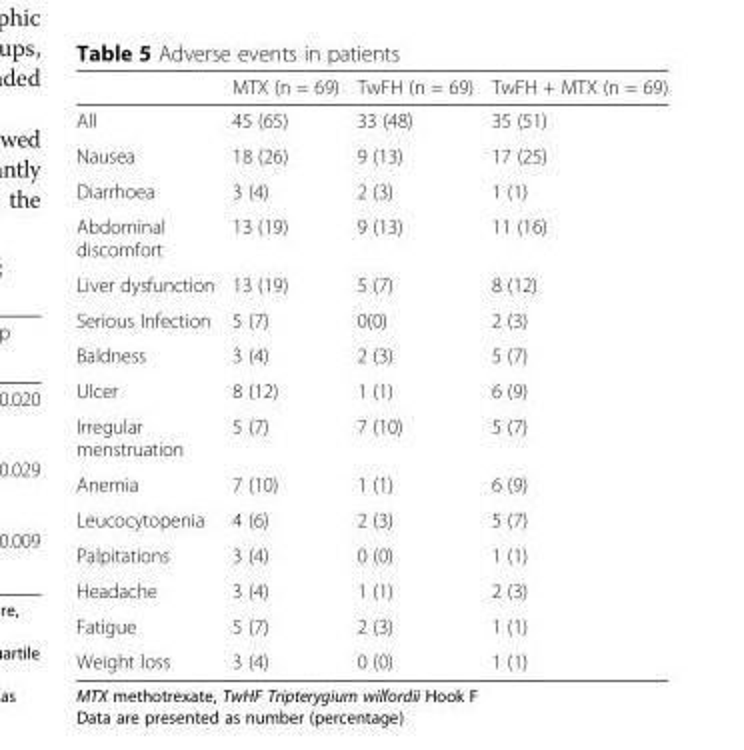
<table><thead><tr><td></td><td>MTX (n = 69)</td><td>TwFH (n = 69)</td><td>TwFH + MTX (n = 69)</td></tr></thead><tbody><tr><td>All</td><td>45 (65)</td><td>33 (48)</td><td>35 (51)</td></tr><tr><td>Nausea</td><td>18 (26)</td><td>9 (13)</td><td>17 (25)</td></tr><tr><td>Diarrhoea</td><td>3 (4)</td><td>2 (3)</td><td>1 (1)</td></tr><tr><td>Abdominal discomfort</td><td>13 (19)</td><td>9 (13)</td><td>11 (16)</td></tr><tr><td>Liver dysfunction</td><td>13 (19)</td><td>5 (7)</td><td>8 (12)</td></tr><tr><td>Serious Infection</td><td>5 (7)</td><td>0(0)</td><td>2 (3)</td></tr><tr><td>Baldness</td><td>3 (4)</td><td>2 (3)</td><td>5 (7)</td></tr><tr><td>Ulcer</td><td>8 (12)</td><td>1 (1)</td><td>6 (9)</td></tr><tr><td>Irregular menstruation</td><td>5 (7)</td><td>7 (10)</td><td>5 (7)</td></tr><tr><td>Anemia</td><td>7 (10)</td><td>1 (1)</td><td>6 (9)</td></tr><tr><td>Leucocytopenia</td><td>4 (6)</td><td>2 (3)</td><td>5 (7)</td></tr><tr><td>Palpitations</td><td>3 (4)</td><td>0 (0)</td><td>1 (1)</td></tr><tr><td>Headache</td><td>3 (4)</td><td>1 (1)</td><td>2 (3)</td></tr><tr><td>Fatigue</td><td>5 (7)</td><td>2 (3)</td><td>1 (1)</td></tr><tr><td>Weight loss</td><td>3 (4)</td><td>0 (0)</td><td>1 (1)</td></tr></tbody></table>